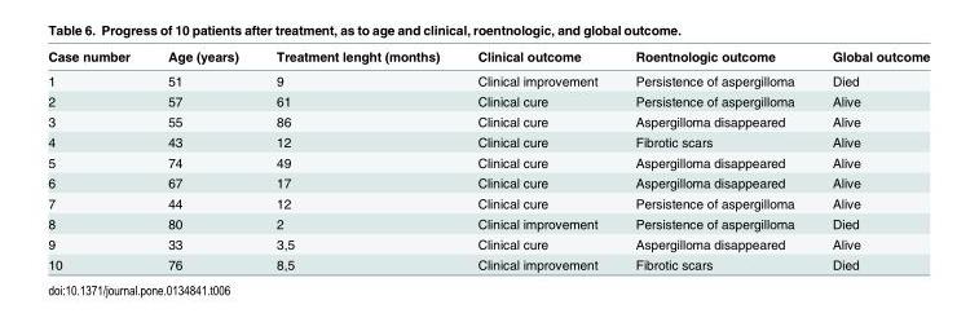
<table><thead><tr><td>Case number</td><td>Age (years)</td><td>Treatment lenght (months)</td><td>Clinical outcome</td><td>Roentnologic outcome</td><td>Global outcome</td></tr></thead><tbody><tr><td>1</td><td>51</td><td>9</td><td>Clinical improvement</td><td>Persistence of aspergilloma</td><td>Died</td></tr><tr><td>2</td><td>57</td><td>61</td><td>Clinical cure</td><td>Persistence of aspergilloma</td><td>Alive</td></tr><tr><td>3</td><td>55</td><td>86</td><td>Clinical cure</td><td>Aspergilloma disappeared</td><td>Alive</td></tr><tr><td>4</td><td>43</td><td>12</td><td>Clinical cure</td><td>Fibrotic scars</td><td>Alive</td></tr><tr><td>5</td><td>74</td><td>49</td><td>Clinical cure</td><td>Aspergilloma disappeared</td><td>Alive</td></tr><tr><td>6</td><td>67</td><td>17</td><td>Clinical cure</td><td>Aspergilloma disappeared</td><td>Alive</td></tr><tr><td>7</td><td>44</td><td>12</td><td>Clinical cure</td><td>Persistence of aspergilloma</td><td>Alive</td></tr><tr><td>8</td><td>80</td><td>2</td><td>Clinical improvement</td><td>Persistence of aspergilloma</td><td>Died</td></tr><tr><td>9</td><td>33</td><td>3,5</td><td>Clinical cure</td><td>Aspergilloma disappeared</td><td>Alive</td></tr><tr><td>10</td><td>76</td><td>8,5</td><td>Clinical improvement</td><td>Fibrotic scars</td><td>Died</td></tr></tbody></table>